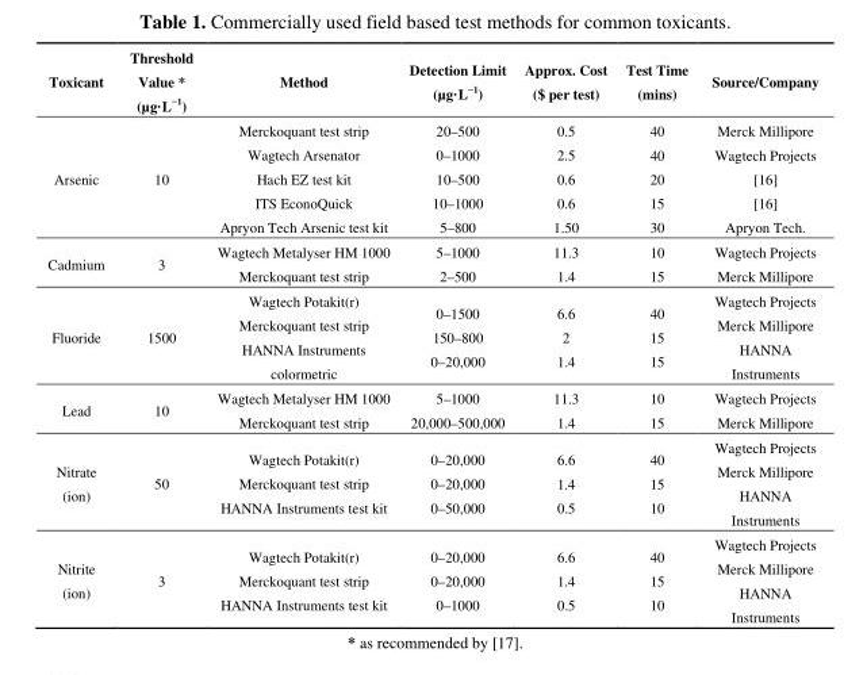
<table><thead><tr><td>Toxicant</td><td>Threshold Value * (µg·L<sup>−1</sup>)</td><td>Method</td><td>Detection Limit (µg·L<sup>−1</sup>)</td><td>Approx. Cost ($ per test)</td><td>Test Time (mins)</td><td>Source/Company</td></tr></thead><tbody><tr><td>Arsenic</td><td>10</td><td>Merckoquant test strip Wagtech Arsenator Hach EZ test kit ITS EconoQuick Apryon Tech Arsenic test kit</td><td>20–500 0–1000 10–500 10–1000 5–800</td><td>0.5 2.5 0.6 0.6 1.50</td><td>40 40 20 15 30</td><td>Merck Millipore Wagtech Projects [16] [16] Apryon Tech.</td></tr><tr><td>Cadmium</td><td>3</td><td>Wagtech Metalyser HM 1000 Merckoquant test strip</td><td>5–1000 2–500</td><td>11.3 1.4</td><td>10 15</td><td>Wagtech Projects Merck Millipore</td></tr><tr><td>Fluoride</td><td>1500</td><td>Wagtech Potakit(r) Merckoquant test strip HANNA Instruments colormetric</td><td>0–1500 150–800 0–20,000</td><td>6.6 2 1.4</td><td>40 15 15</td><td>Wagtech Projects Merck Millipore HANNA Instruments</td></tr><tr><td>Lead</td><td>10</td><td>Wagtech Metalyser HM 1000 Merckoquant test strip</td><td>5–1000 20,000–500,000</td><td>11.3 1.4</td><td>10 15</td><td>Wagtech Projects Merck Millipore</td></tr><tr><td>Nitrate (ion)</td><td>50</td><td>Wagtech Potakit(r) Merckoquant test strip HANNA Instruments test kit</td><td>0–20,000 0–20,000 0–50,000</td><td>6.6 1.4 0.5</td><td>40 15 10</td><td>Wagtech Projects Merck Millipore HANNA Instruments</td></tr><tr><td>Nitrite (ion)</td><td>3</td><td>Wagtech Potakit(r) Merckoquant test strip HANNA Instruments test kit</td><td>0–20,000 0–20,000 0–1000</td><td>6.6 1.4 0.5</td><td>40 15 10</td><td>Wagtech Projects Merck Millipore HANNA Instruments</td></tr></tbody></table>